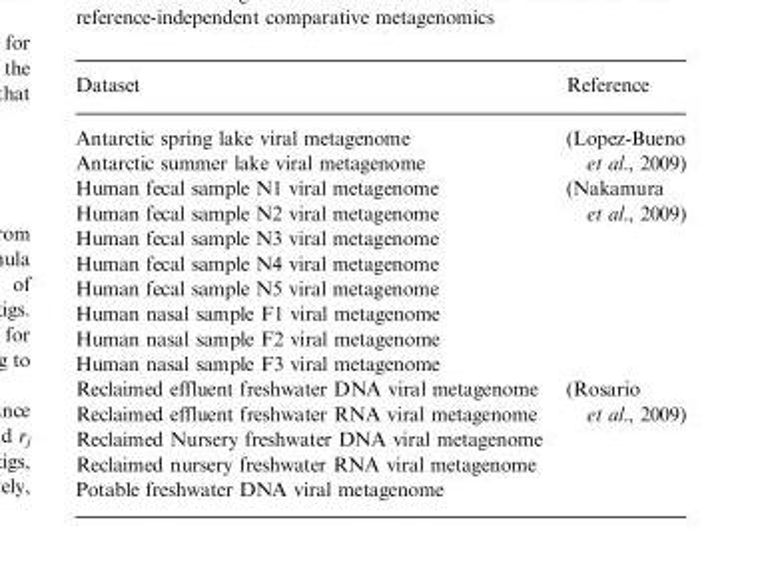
<table><thead><tr><td>Dataset</td><td>Reference</td></tr></thead><tbody><tr><td>Antarctic spring lake viral metagenome</td><td rowspan="2">(Lopez-Bueno et al., 2009)</td></tr><tr><td>Antarctic summer lake viral metagenome</td></tr><tr><td>Human fecal sample N1 viral metagenome</td><td rowspan="8">(Nakamura et al., 2009)</td></tr><tr><td>Human fecal sample N2 viral metagenome</td></tr><tr><td>Human fecal sample N3 viral metagenome</td></tr><tr><td>Human fecal sample N4 viral metagenome</td></tr><tr><td>Human fecal sample N5 viral metagenome</td></tr><tr><td>Human nasal sample F1 viral metagenome</td></tr><tr><td>Human nasal sample F2 viral metagenome</td></tr><tr><td>Human nasal sample F3 viral metagenome</td></tr><tr><td>Reclaimed effluent freshwater DNA viral metagenome</td><td rowspan="5">(Rosario et al., 2009)</td></tr><tr><td>Reclaimed effluent freshwater RNA viral metagenome</td></tr><tr><td>Reclaimed Nursery freshwater DNA viral metagenome</td></tr><tr><td>Reclaimed nursery freshwater RNA viral metagenome</td></tr><tr><td>Potable freshwater DNA viral metagenome</td></tr></tbody></table>